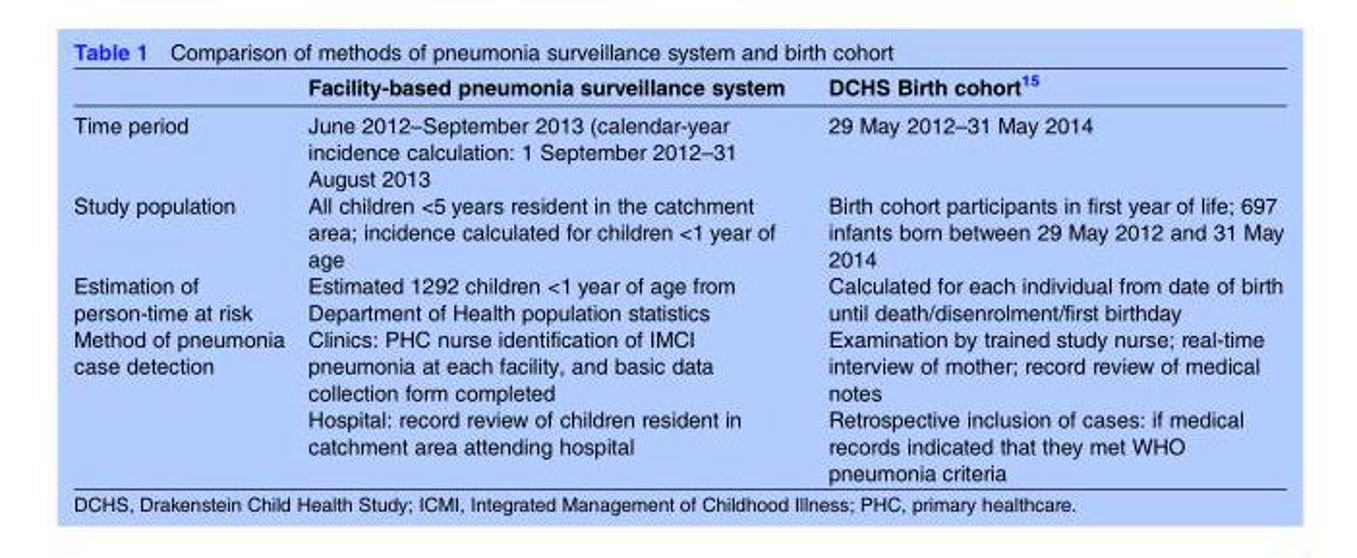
<table><thead><tr><td></td><td>Facility-based pneumonia surveillance system</td><td>DCHS Birth cohort<sup>15</sup></td></tr></thead><tbody><tr><td>Time period</td><td>June 2012–September 2013 (calendar-year incidence calculation: 1 September 2012–31 August 2013</td><td>29 May 2012–31 May 2014</td></tr><tr><td>Study population</td><td>All children &lt;5 years resident in the catchment area; incidence calculated for children &lt;1 year of age</td><td>Birth cohort participants in first year of life; 697 infants born between 29 May 2012 and 31 May 2014</td></tr><tr><td>Estimation of person-time at risk</td><td>Estimated 1292 children &lt;1 year of age from Department of Health population statistics</td><td>Calculated for each individual from date of birth until death/disenrolment/first birthday</td></tr><tr><td>Method of pneumonia case detection</td><td>Clinics: PHC nurse identification of IMCI pneumonia at each facility, and basic data collection form completed Hospital: record review of children resident in catchment area attending hospital</td><td>Examination by trained study nurse; real-time interview of mother; record review of medical notes Retrospective inclusion of cases: if medical records indicated that they met WHO pneumonia criteria</td></tr></tbody></table>